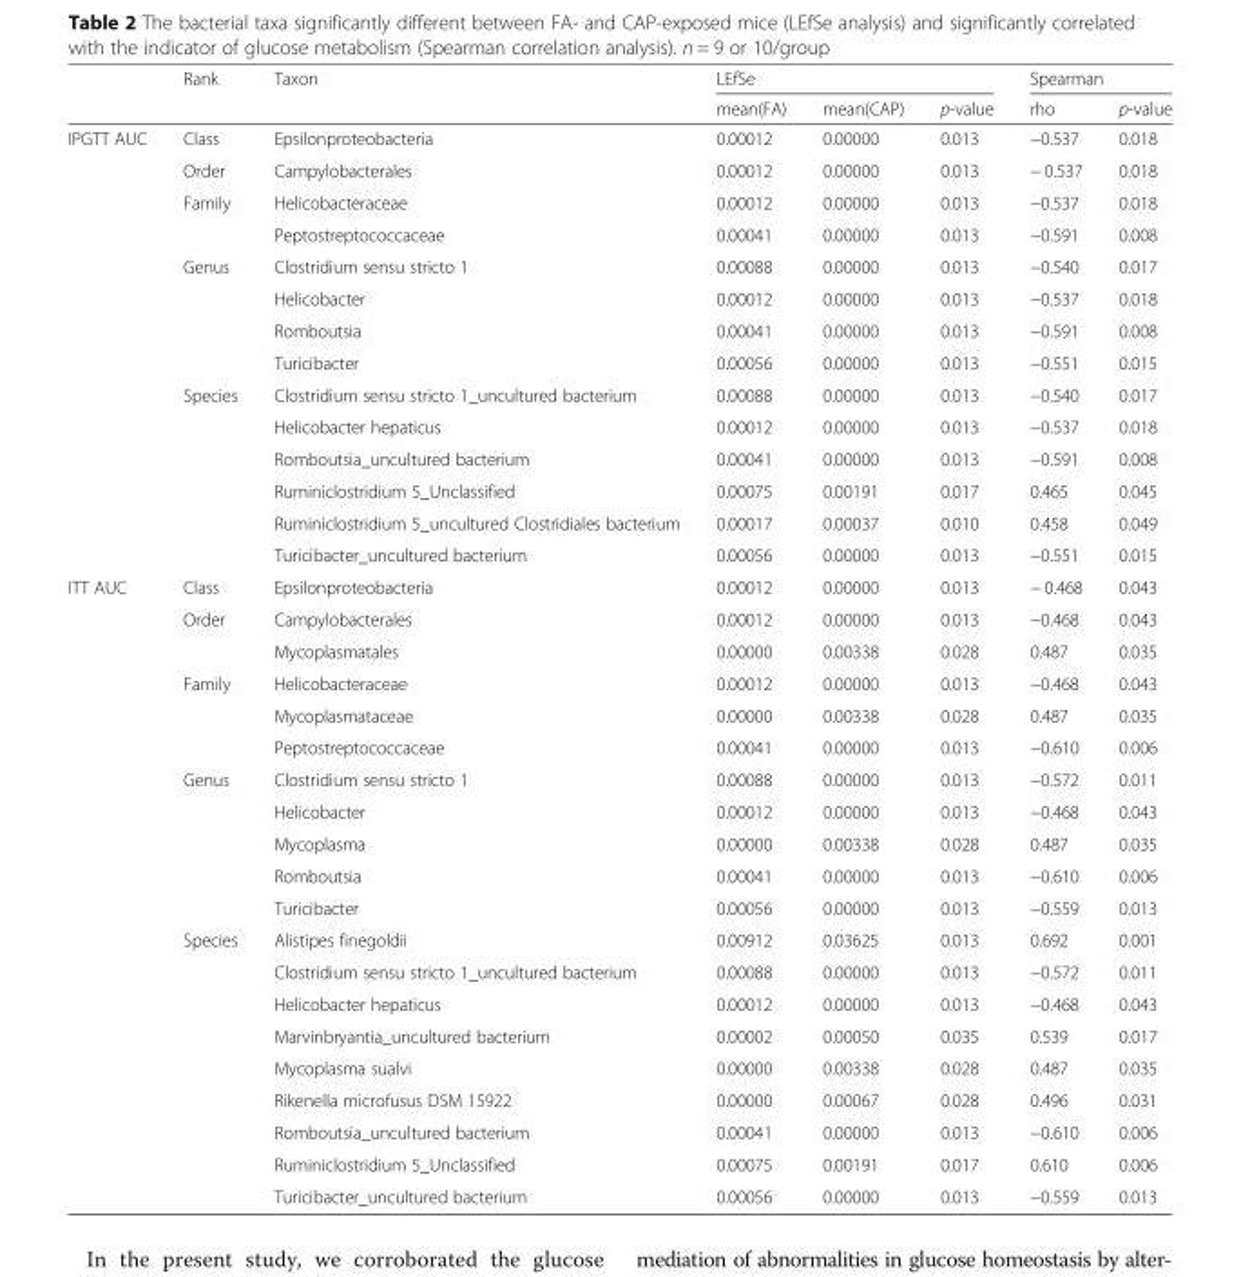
<table><thead><tr><td rowspan="2"></td><td rowspan="2">Rank</td><td rowspan="2">Taxon</td><td colspan="3">LEfSe</td><td colspan="2">Spearman</td></tr><tr><td>mean(FA)</td><td>mean(CAP)</td><td>p-value</td><td>rho</td><td>p-value</td></tr></thead><tbody><tr><td rowspan="14">IPGTT AUC</td><td>Class</td><td>Epsilonproteobacteria</td><td>0.00012</td><td>0.00000</td><td>0.013</td><td>−0.537</td><td>0.018</td></tr><tr><td>Order</td><td>Campylobacterales</td><td>0.00012</td><td>0.00000</td><td>0.013</td><td>− 0.537</td><td>0.018</td></tr><tr><td rowspan="2">Family</td><td>Helicobacteraceae</td><td>0.00012</td><td>0.00000</td><td>0.013</td><td>−0.537</td><td>0.018</td></tr><tr><td>Peptostreptococcaceae</td><td>0.00041</td><td>0.00000</td><td>0.013</td><td>−0.591</td><td>0.008</td></tr><tr><td rowspan="4">Genus</td><td>Clostridium sensu stricto 1</td><td>0.00088</td><td>0.00000</td><td>0.013</td><td>−0.540</td><td>0.017</td></tr><tr><td>Helicobacter</td><td>0.00012</td><td>0.00000</td><td>0.013</td><td>−0.537</td><td>0.018</td></tr><tr><td>Romboutsia</td><td>0.00041</td><td>0.00000</td><td>0.013</td><td>−0.591</td><td>0.008</td></tr><tr><td>Turicibacter</td><td>0.00056</td><td>0.00000</td><td>0.013</td><td>−0.551</td><td>0.015</td></tr><tr><td rowspan="6">Species</td><td>Clostridium sensu stricto 1_uncultured bacterium</td><td>0.00088</td><td>0.00000</td><td>0.013</td><td>−0.540</td><td>0.017</td></tr><tr><td>Helicobacter hepaticus</td><td>0.00012</td><td>0.00000</td><td>0.013</td><td>−0.537</td><td>0.018</td></tr><tr><td>Romboutsia_uncultured bacterium</td><td>0.00041</td><td>0.00000</td><td>0.013</td><td>−0.591</td><td>0.008</td></tr><tr><td>Ruminiclostridium 5_Unclassified</td><td>0.00075</td><td>0.00191</td><td>0.017</td><td>0.465</td><td>0.045</td></tr><tr><td>Ruminiclostridium 5_uncultured Clostridiales bacterium</td><td>0.00017</td><td>0.00037</td><td>0.010</td><td>0.458</td><td>0.049</td></tr><tr><td>Turicibacter_uncultured bacterium</td><td>0.00056</td><td>0.00000</td><td>0.013</td><td>−0.551</td><td>0.015</td></tr><tr><td rowspan="20">ITT AUC</td><td>Class</td><td>Epsilonproteobacteria</td><td>0.00012</td><td>0.00000</td><td>0.013</td><td>− 0.468</td><td>0.043</td></tr><tr><td rowspan="2">Order</td><td>Campylobacterales</td><td>0.00012</td><td>0.00000</td><td>0.013</td><td>−0.468</td><td>0.043</td></tr><tr><td>Mycoplasmatales</td><td>0.00000</td><td>0.00338</td><td>0.028</td><td>0.487</td><td>0.035</td></tr><tr><td rowspan="3">Family</td><td>Helicobacteraceae</td><td>0.00012</td><td>0.00000</td><td>0.013</td><td>−0.468</td><td>0.043</td></tr><tr><td>Mycoplasmataceae</td><td>0.00000</td><td>0.00338</td><td>0.028</td><td>0.487</td><td>0.035</td></tr><tr><td>Peptostreptococcaceae</td><td>0.00041</td><td>0.00000</td><td>0.013</td><td>−0.610</td><td>0.006</td></tr><tr><td rowspan="5">Genus</td><td>Clostridium sensu stricto 1</td><td>0.00088</td><td>0.00000</td><td>0.013</td><td>−0.572</td><td>0.011</td></tr><tr><td>Helicobacter</td><td>0.00012</td><td>0.00000</td><td>0.013</td><td>−0.468</td><td>0.043</td></tr><tr><td>Mycoplasma</td><td>0.00000</td><td>0.00338</td><td>0.028</td><td>0.487</td><td>0.035</td></tr><tr><td>Romboutsia</td><td>0.00041</td><td>0.00000</td><td>0.013</td><td>−0.610</td><td>0.006</td></tr><tr><td>Turicibacter</td><td>0.00056</td><td>0.00000</td><td>0.013</td><td>−0.559</td><td>0.013</td></tr><tr><td>Species</td><td>Alistipes finegoldii</td><td>0.00912</td><td>0.03625</td><td>0.013</td><td>0.692</td><td>0.001</td></tr><tr><td></td><td>Clostridium sensu stricto 1_uncultured bacterium</td><td>0.00088</td><td>0.00000</td><td>0.013</td><td>−0.572</td><td>0.011</td></tr><tr><td></td><td>Helicobacter hepaticus</td><td>0.00012</td><td>0.00000</td><td>0.013</td><td>−0.468</td><td>0.043</td></tr><tr><td></td><td>Marvinbryantia_uncultured bacterium</td><td>0.00002</td><td>0.00050</td><td>0.035</td><td>0.539</td><td>0.017</td></tr><tr><td></td><td>Mycoplasma sualvi</td><td>0.00000</td><td>0.00338</td><td>0.028</td><td>0.487</td><td>0.035</td></tr><tr><td></td><td>Rikenella microfusus DSM 15922</td><td>0.00000</td><td>0.00067</td><td>0.028</td><td>0.496</td><td>0.031</td></tr><tr><td></td><td>Romboutsia_uncultured bacterium</td><td>0.00041</td><td>0.00000</td><td>0.013</td><td>−0.610</td><td>0.006</td></tr><tr><td></td><td>Ruminiclostridium 5_Unclassified</td><td>0.00075</td><td>0.00191</td><td>0.017</td><td>0.610</td><td>0.006</td></tr><tr><td></td><td>Turicibacter_uncultured bacterium</td><td>0.00056</td><td>0.00000</td><td>0.013</td><td>−0.559</td><td>0.013</td></tr></tbody></table>